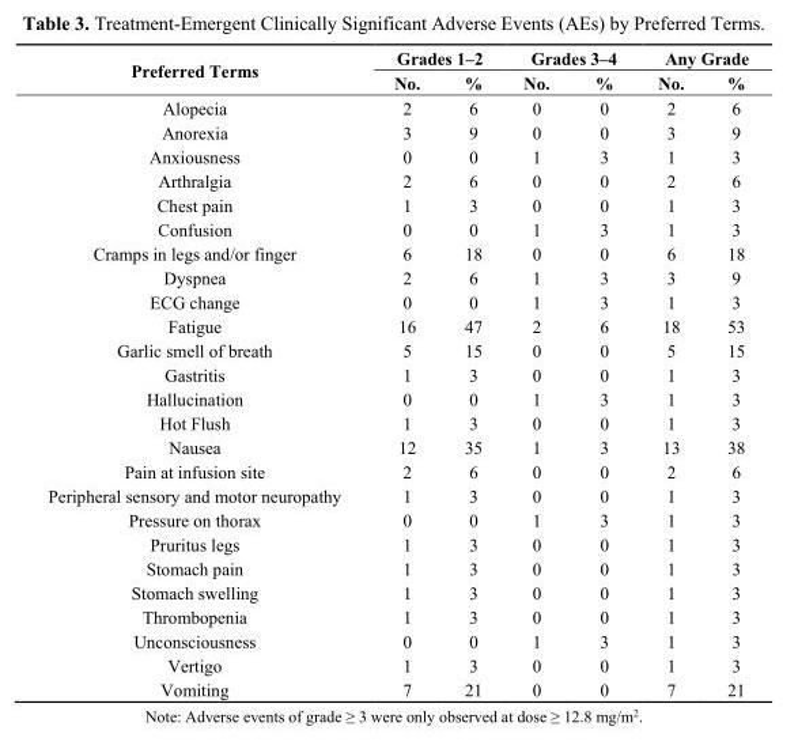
<table><thead><tr><td rowspan="2">Preferred Terms</td><td colspan="2">Grades 1–2</td><td colspan="2">Grades 3–4</td><td colspan="2">Any Grade</td></tr><tr><td>No.</td><td>%</td><td>No.</td><td>%</td><td>No.</td><td>%</td></tr></thead><tbody><tr><td>Alopecia</td><td>2</td><td>6</td><td>0</td><td>0</td><td>2</td><td>6</td></tr><tr><td>Anorexia</td><td>3</td><td>9</td><td>0</td><td>0</td><td>3</td><td>9</td></tr><tr><td>Anxiousness</td><td>0</td><td>0</td><td>1</td><td>3</td><td>1</td><td>3</td></tr><tr><td>Arthralgia</td><td>2</td><td>6</td><td>0</td><td>0</td><td>2</td><td>6</td></tr><tr><td>Chest pain</td><td>1</td><td>3</td><td>0</td><td>0</td><td>1</td><td>3</td></tr><tr><td>Confusion</td><td>0</td><td>0</td><td>1</td><td>3</td><td>1</td><td>3</td></tr><tr><td>Cramps in legs and/or finger</td><td>6</td><td>18</td><td>0</td><td>0</td><td>6</td><td>18</td></tr><tr><td>Dyspnea</td><td>2</td><td>6</td><td>1</td><td>3</td><td>3</td><td>9</td></tr><tr><td>ECG change</td><td>0</td><td>0</td><td>1</td><td>3</td><td>1</td><td>3</td></tr><tr><td>Fatigue</td><td>16</td><td>47</td><td>2</td><td>6</td><td>18</td><td>53</td></tr><tr><td>Garlic smell of breath</td><td>5</td><td>15</td><td>0</td><td>0</td><td>5</td><td>15</td></tr><tr><td>Gastritis</td><td>1</td><td>3</td><td>0</td><td>0</td><td>1</td><td>3</td></tr><tr><td>Hallucination</td><td>0</td><td>0</td><td>1</td><td>3</td><td>1</td><td>3</td></tr><tr><td>Hot Flush</td><td>1</td><td>3</td><td>0</td><td>0</td><td>1</td><td>3</td></tr><tr><td>Nausea</td><td>12</td><td>35</td><td>1</td><td>3</td><td>13</td><td>38</td></tr><tr><td>Pain at infusion site</td><td>2</td><td>6</td><td>0</td><td>0</td><td>2</td><td>6</td></tr><tr><td>Peripheral sensory and motor neuropathy</td><td>1</td><td>3</td><td>0</td><td>0</td><td>1</td><td>3</td></tr><tr><td>Pressure on thorax</td><td>0</td><td>0</td><td>1</td><td>3</td><td>1</td><td>3</td></tr><tr><td>Pruritus legs</td><td>1</td><td>3</td><td>0</td><td>0</td><td>1</td><td>3</td></tr><tr><td>Stomach pain</td><td>1</td><td>3</td><td>0</td><td>0</td><td>1</td><td>3</td></tr><tr><td>Stomach swelling</td><td>1</td><td>3</td><td>0</td><td>0</td><td>1</td><td>3</td></tr><tr><td>Thrombopenia</td><td>1</td><td>3</td><td>0</td><td>0</td><td>1</td><td>3</td></tr><tr><td>Unconsciousness</td><td>0</td><td>0</td><td>1</td><td>3</td><td>1</td><td>3</td></tr><tr><td>Vertigo</td><td>1</td><td>3</td><td>0</td><td>0</td><td>1</td><td>3</td></tr><tr><td>Vomiting</td><td>7</td><td>21</td><td>0</td><td>0</td><td>7</td><td>21</td></tr></tbody></table>